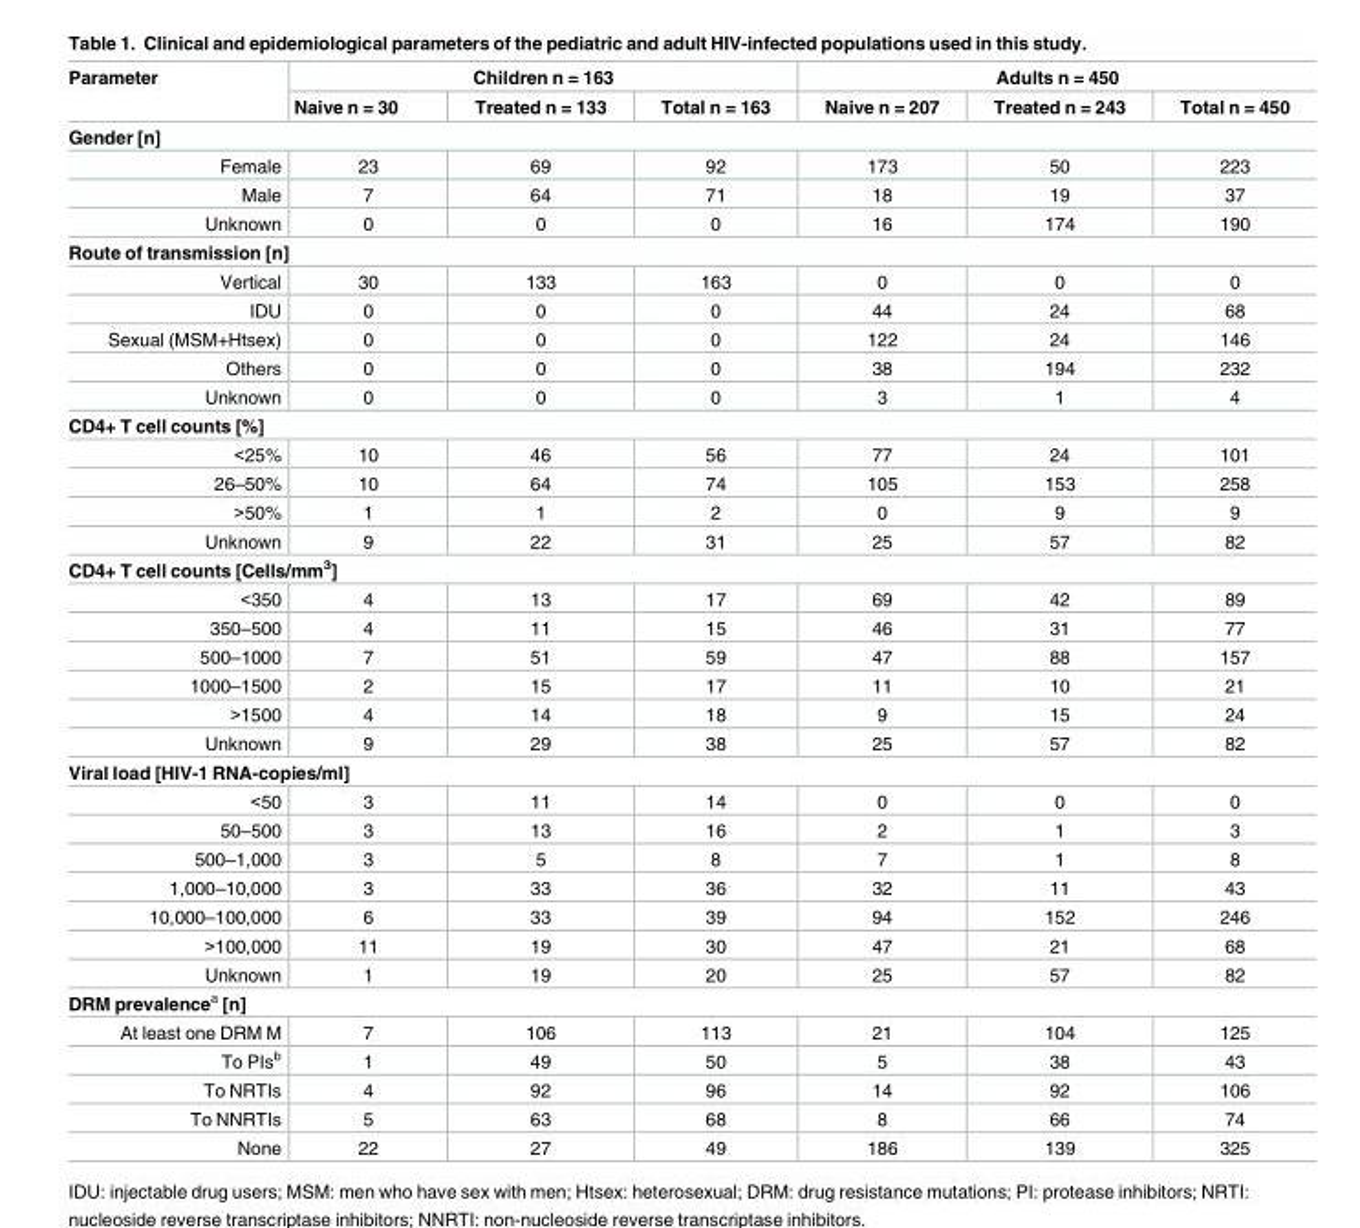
<table><thead><tr><td rowspan="2">Parameter</td><td colspan="3">Children n = 163</td><td colspan="3">Adults n = 450</td></tr><tr><td>Naive n = 30</td><td>Treated n = 133</td><td>Total n = 163</td><td>Naive n = 207</td><td>Treated n = 243</td><td>Total n = 450</td></tr></thead><tbody><tr><td colspan="7">Gender [n]</td></tr><tr><td>Female</td><td>23</td><td>69</td><td>92</td><td>173</td><td>50</td><td>223</td></tr><tr><td>Male</td><td>7</td><td>64</td><td>71</td><td>18</td><td>19</td><td>37</td></tr><tr><td>Unknown</td><td>0</td><td>0</td><td>0</td><td>16</td><td>174</td><td>190</td></tr><tr><td colspan="7">Route of transmission [n]</td></tr><tr><td>Vertical</td><td>30</td><td>133</td><td>163</td><td>0</td><td>0</td><td>0</td></tr><tr><td>IDU</td><td>0</td><td>0</td><td>0</td><td>44</td><td>24</td><td>68</td></tr><tr><td>Sexual (MSM+Htsex)</td><td>0</td><td>0</td><td>0</td><td>122</td><td>24</td><td>146</td></tr><tr><td>Others</td><td>0</td><td>0</td><td>0</td><td>38</td><td>194</td><td>232</td></tr><tr><td>Unknown</td><td>0</td><td>0</td><td>0</td><td>3</td><td>1</td><td>4</td></tr><tr><td colspan="7">CD4+ T cell counts [%]</td></tr><tr><td>&lt;25%</td><td>10</td><td>46</td><td>56</td><td>77</td><td>24</td><td>101</td></tr><tr><td>26–50%</td><td>10</td><td>64</td><td>74</td><td>105</td><td>153</td><td>258</td></tr><tr><td>&gt;50%</td><td>1</td><td>1</td><td>2</td><td>0</td><td>9</td><td>9</td></tr><tr><td>Unknown</td><td>9</td><td>22</td><td>31</td><td>25</td><td>57</td><td>82</td></tr><tr><td colspan="7">CD4+ T cell counts [Cells/mm<sup>3</sup>]</td></tr><tr><td>&lt;350</td><td>4</td><td>13</td><td>17</td><td>69</td><td>42</td><td>89</td></tr><tr><td>350–500</td><td>4</td><td>11</td><td>15</td><td>46</td><td>31</td><td>77</td></tr><tr><td>500–1000</td><td>7</td><td>51</td><td>59</td><td>47</td><td>88</td><td>157</td></tr><tr><td>1000–1500</td><td>2</td><td>15</td><td>17</td><td>11</td><td>10</td><td>21</td></tr><tr><td>&gt;1500</td><td>4</td><td>14</td><td>18</td><td>9</td><td>15</td><td>24</td></tr><tr><td>Unknown</td><td>9</td><td>29</td><td>38</td><td>25</td><td>57</td><td>82</td></tr><tr><td colspan="7">Viral load [HIV-1 RNA-copies/ml]</td></tr><tr><td>&lt;50</td><td>3</td><td>11</td><td>14</td><td>0</td><td>0</td><td>0</td></tr><tr><td>50–500</td><td>3</td><td>13</td><td>16</td><td>2</td><td>1</td><td>3</td></tr><tr><td>500–1,000</td><td>3</td><td>5</td><td>8</td><td>7</td><td>1</td><td>8</td></tr><tr><td>1,000–10,000</td><td>3</td><td>33</td><td>36</td><td>32</td><td>11</td><td>43</td></tr><tr><td>10,000–100,000</td><td>6</td><td>33</td><td>39</td><td>94</td><td>152</td><td>246</td></tr><tr><td>&gt;100,000</td><td>11</td><td>19</td><td>30</td><td>47</td><td>21</td><td>68</td></tr><tr><td>Unknown</td><td>1</td><td>19</td><td>20</td><td>25</td><td>57</td><td>82</td></tr><tr><td colspan="7">DRM prevalence<sup>a</sup> [n]</td></tr><tr><td>At least one DRM M</td><td>7</td><td>106</td><td>113</td><td>21</td><td>104</td><td>125</td></tr><tr><td>To PIs<sup>b</sup></td><td>1</td><td>49</td><td>50</td><td>5</td><td>38</td><td>43</td></tr><tr><td>To NRTIs</td><td>4</td><td>92</td><td>96</td><td>14</td><td>92</td><td>106</td></tr><tr><td>To NNRTIs</td><td>5</td><td>63</td><td>68</td><td>8</td><td>66</td><td>74</td></tr><tr><td>None</td><td>22</td><td>27</td><td>49</td><td>186</td><td>139</td><td>325</td></tr></tbody></table>